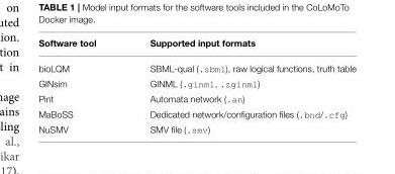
<table><thead><tr><td>Software tool</td><td>Supported input formats</td></tr></thead><tbody><tr><td>bioLQM</td><td>SBML-qual (.sbml), raw logical functions, truth table</td></tr><tr><td>GINsim</td><td>GINML (.ginml, .zginml)</td></tr><tr><td>Pint</td><td>Automata network (.an)</td></tr><tr><td>MaBoSS</td><td>Dedicated network/configuration files (.bnd/.cfg)</td></tr><tr><td>NuSMV</td><td>SMV file (.smv)</td></tr></tbody></table>